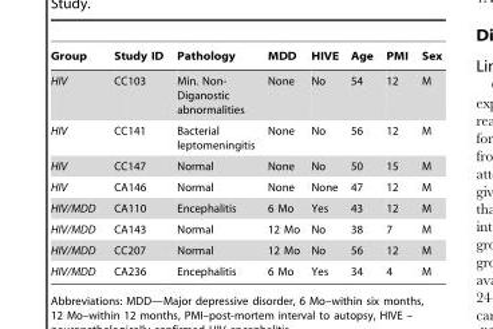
<table><thead><tr><td>Group</td><td>Study ID</td><td>Pathology</td><td>MDD</td><td>HIVE</td><td>Age</td><td>PMI</td><td>Sex</td></tr></thead><tbody><tr><td>HIV</td><td>CC103</td><td>Min. Non- Diganostic abnormalities</td><td>None</td><td>No</td><td>54</td><td>12</td><td>M</td></tr><tr><td>HIV</td><td>CC141</td><td>Bacterial leptomeningitis</td><td>None</td><td>No</td><td>56</td><td>12</td><td>M</td></tr><tr><td>HIV</td><td>CC147</td><td>Normal</td><td>None</td><td>No</td><td>50</td><td>15</td><td>M</td></tr><tr><td>HIV</td><td>CA146</td><td>Normal</td><td>None</td><td>None</td><td>47</td><td>12</td><td>M</td></tr><tr><td>HIV/MDD</td><td>CA110</td><td>Encephalitis</td><td>6 Mo</td><td>Yes</td><td>43</td><td>12</td><td>M</td></tr><tr><td>HIV/MDD</td><td>CA143</td><td>Normal</td><td>12 Mo</td><td>No</td><td>38</td><td>7</td><td>M</td></tr><tr><td>HIV/MDD</td><td>CC207</td><td>Normal</td><td>12 Mo</td><td>No</td><td>56</td><td>12</td><td>M</td></tr><tr><td>HIV/MDD</td><td>CA236</td><td>Encephalitis</td><td>6 Mo</td><td>Yes</td><td>34</td><td>4</td><td>M</td></tr></tbody></table>